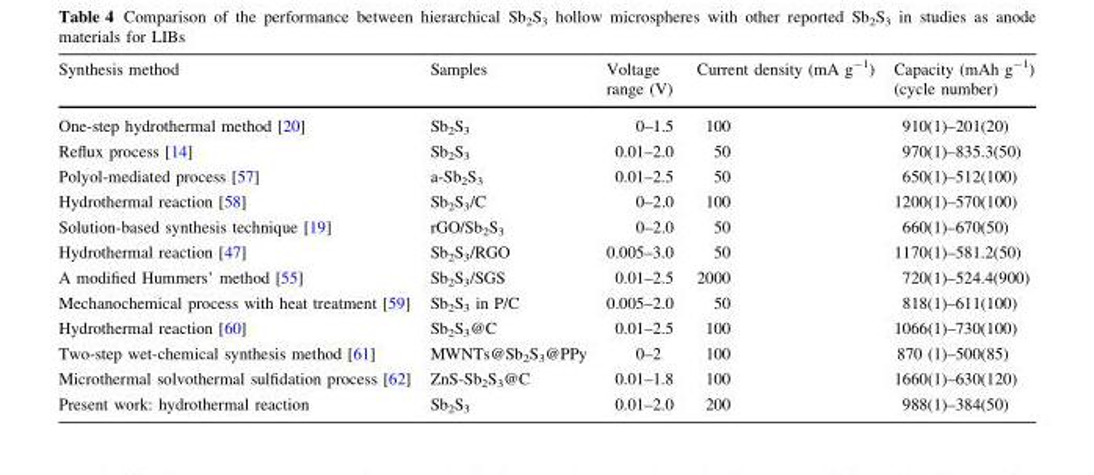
<table><thead><tr><td>Synthesis method</td><td>Samples</td><td>Voltage range (V)</td><td>Current density (mA g<sup>-1</sup>)</td><td>Capacity (mAh g<sup>-1</sup>) (cycle number)</td></tr></thead><tbody><tr><td>One-step hydrothermal method [20]</td><td>Sb<sub>2</sub>S<sub>3</sub></td><td>0–1.5</td><td>100</td><td>910(1)–201(20)</td></tr><tr><td>Reflux process [14]</td><td>Sb<sub>2</sub>S<sub>3</sub></td><td>0.01–2.0</td><td>50</td><td>970(1)–835.3(50)</td></tr><tr><td>Polyol-mediated process [57]</td><td>a-Sb<sub>2</sub>S<sub>3</sub></td><td>0.01–2.5</td><td>50</td><td>650(1)–512(100)</td></tr><tr><td>Hydrothermal reaction [58]</td><td>Sb<sub>2</sub>S<sub>3</sub>/C</td><td>0–2.0</td><td>100</td><td>1200(1)–570(100)</td></tr><tr><td>Solution-based synthesis technique [19]</td><td>rGO/Sb<sub>2</sub>S<sub>3</sub></td><td>0–2.0</td><td>50</td><td>660(1)–670(50)</td></tr><tr><td>Hydrothermal reaction [47]</td><td>Sb<sub>2</sub>S<sub>3</sub>/RGO</td><td>0.005–3.0</td><td>50</td><td>1170(1)–581.2(50)</td></tr><tr><td>A modified Hummers’ method [55]</td><td>Sb<sub>2</sub>S<sub>3</sub>/SGS</td><td>0.01–2.5</td><td>2000</td><td>720(1)–524.4(900)</td></tr><tr><td>Mechanochemical process with heat treatment [59]</td><td>Sb<sub>2</sub>S<sub>3</sub> in P/C</td><td>0.005–2.0</td><td>50</td><td>818(1)–611(100)</td></tr><tr><td>Hydrothermal reaction [60]</td><td>Sb<sub>2</sub>S<sub>3</sub>@C</td><td>0.01–2.5</td><td>100</td><td>1066(1)–730(100)</td></tr><tr><td>Two-step wet-chemical synthesis method [61]</td><td>MWNTs@Sb<sub>2</sub>S<sub>3</sub>@PPy</td><td>0–2</td><td>100</td><td>870 (1)–500(85)</td></tr><tr><td>Microthermal solvothermal sulfidation process [62]</td><td>ZnS-Sb<sub>2</sub>S<sub>3</sub>@C</td><td>0.01–1.8</td><td>100</td><td>1660(1)–630(120)</td></tr><tr><td>Present work: hydrothermal reaction</td><td>Sb<sub>2</sub>S<sub>3</sub></td><td>0.01–2.0</td><td>200</td><td>988(1)–384(50)</td></tr></tbody></table>